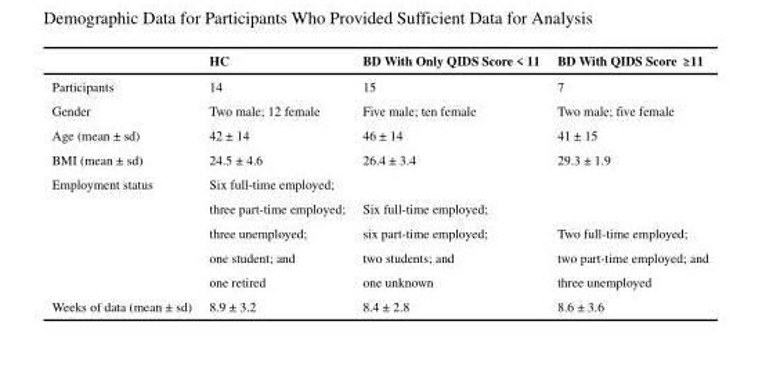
<table><thead><tr><td></td><td>HC</td><td>BD With Only QIDS Score &lt; 11</td><td>BD With QIDS Score ≥ 11</td></tr></thead><tbody><tr><td>Participants</td><td>14</td><td>15</td><td>7</td></tr><tr><td>Gender</td><td>Two male; 12 female</td><td>Five male; ten female</td><td>Two male; five female</td></tr><tr><td>Age (mean ± sd)</td><td>42 ± 14</td><td>46 ± 14</td><td>41 ± 15</td></tr><tr><td>BMI (mean ± sd)</td><td>24.5 ± 4.6</td><td>26.4 ± 3.4</td><td>29.3 ± 1.9</td></tr><tr><td rowspan="5">Employment status</td><td>Six full-time employed;</td><td></td><td></td></tr><tr><td>three part-time employed;</td><td>Six full-time employed;</td><td></td></tr><tr><td>three unemployed;</td><td>six part-time employed;</td><td>Two full-time employed;</td></tr><tr><td>one student; and</td><td>two students; and</td><td>two part-time employed; and</td></tr><tr><td>one retired</td><td>one unknown</td><td>three unemployed</td></tr><tr><td>Weeks of data (mean ± sd)</td><td>8.9 ± 3.2</td><td>8.4 ± 2.8</td><td>8.6 ± 3.6</td></tr></tbody></table>